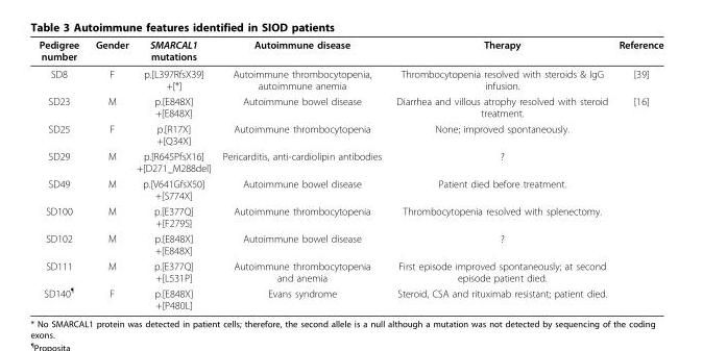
<table><thead><tr><td>Pedigree number</td><td>Gender</td><td>SMARCAL1 mutations</td><td>Autoimmune disease</td><td>Therapy</td><td>Reference</td></tr></thead><tbody><tr><td>SD8</td><td>F</td><td>p.[L397RfsX39] +[*]</td><td>Autoimmune thrombocytopenia, autoimmune anemia</td><td>Thrombocytopenia resolved with steroids &amp; IgG infusion.</td><td>[39]</td></tr><tr><td>SD23</td><td>M</td><td>p.[E848X] +[E848X]</td><td>Autoimmune bowel disease</td><td>Diarrhea and villous atrophy resolved with steroid treatment.</td><td>[16]</td></tr><tr><td>SD25</td><td>F</td><td>p.[R17X] +[Q34X]</td><td>Autoimmune thrombocytopenia</td><td>None; improved spontaneously.</td><td></td></tr><tr><td>SD29</td><td>M</td><td>p.[R645PfsX16] +[D271_M288del]</td><td>Pericarditis, anti-cardiolipin antibodies</td><td>?</td><td></td></tr><tr><td>SD49</td><td>M</td><td>p.[V641GfsX50] +[S774X]</td><td>Autoimmune bowel disease</td><td>Patient died before treatment.</td><td></td></tr><tr><td>SD100</td><td>M</td><td>p.[E377Q] +[F279S]</td><td>Autoimmune thrombocytopenia</td><td>Thrombocytopenia resolved with splenectomy.</td><td></td></tr><tr><td>SD102</td><td>M</td><td>p.[E848X] +[E848X]</td><td>Autoimmune bowel disease</td><td>?</td><td></td></tr><tr><td>SD111</td><td>M</td><td>p.[E377Q] +[L531P]</td><td>Autoimmune thrombocytopenia and anemia</td><td>First episode improved spontaneously; at second episode patient died.</td><td></td></tr><tr><td>SD140<sup>¶</sup></td><td>F</td><td>p.[E848X] +[P480L]</td><td>Evans syndrome</td><td>Steroid, CSA and rituximab resistant; patient died.</td><td></td></tr></tbody></table>